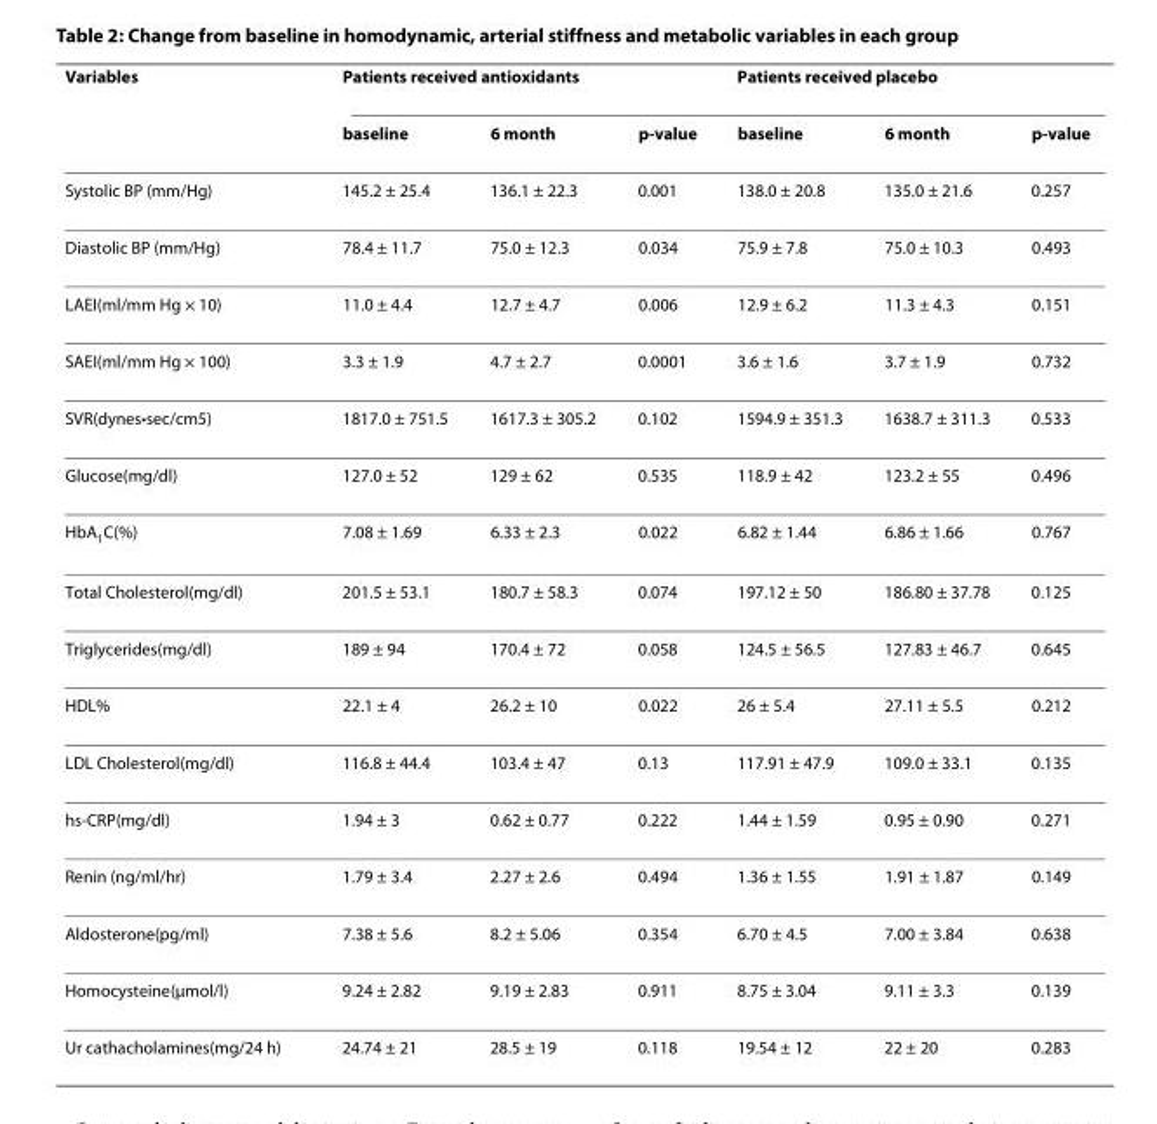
<table><thead><tr><td rowspan="2">Variables</td><td colspan="3">Patients received antioxidants</td><td colspan="3">Patients received placebo</td></tr><tr><td>baseline</td><td>6 month</td><td>p-value</td><td>baseline</td><td>6 month</td><td>p-value</td></tr></thead><tbody><tr><td>Systolic BP (mm/Hg)</td><td>145.2 ± 25.4</td><td>136.1 ± 22.3</td><td>0.001</td><td>138.0 ± 20.8</td><td>135.0 ± 21.6</td><td>0.257</td></tr><tr><td>Diastolic BP (mm/Hg)</td><td>78.4 ± 11.7</td><td>75.0 ± 12.3</td><td>0.034</td><td>75.9 ± 7.8</td><td>75.0 ± 10.3</td><td>0.493</td></tr><tr><td>LAEI(ml/mm Hg × 10)</td><td>11.0 ± 4.4</td><td>12.7 ± 4.7</td><td>0.006</td><td>12.9 ± 6.2</td><td>11.3 ± 4.3</td><td>0.151</td></tr><tr><td>SAEI(ml/mm Hg × 100)</td><td>3.3 ± 1.9</td><td>4.7 ± 2.7</td><td>0.0001</td><td>3.6 ± 1.6</td><td>3.7 ± 1.9</td><td>0.732</td></tr><tr><td>SVR(dynes•sec/cm5)</td><td>1817.0 ± 751.5</td><td>1617.3 ± 305.2</td><td>0.102</td><td>1594.9 ± 351.3</td><td>1638.7 ± 311.3</td><td>0.533</td></tr><tr><td>Glucose(mg/dl)</td><td>127.0 ± 52</td><td>129 ± 62</td><td>0.535</td><td>118.9 ± 42</td><td>123.2 ± 55</td><td>0.496</td></tr><tr><td>HbA<sub>1</sub>C(%)</td><td>7.08 ± 1.69</td><td>6.33 ± 2.3</td><td>0.022</td><td>6.82 ± 1.44</td><td>6.86 ± 1.66</td><td>0.767</td></tr><tr><td>Total Cholesterol(mg/dl)</td><td>201.5 ± 53.1</td><td>180.7 ± 58.3</td><td>0.074</td><td>197.12 ± 50</td><td>186.80 ± 37.78</td><td>0.125</td></tr><tr><td>Triglycerides(mg/dl)</td><td>189 ± 94</td><td>170.4 ± 72</td><td>0.058</td><td>124.5 ± 56.5</td><td>127.83 ± 46.7</td><td>0.645</td></tr><tr><td>HDL%</td><td>22.1 ± 4</td><td>26.2 ± 10</td><td>0.022</td><td>26 ± 5.4</td><td>27.11 ± 5.5</td><td>0.212</td></tr><tr><td>LDL Cholesterol(mg/dl)</td><td>116.8 ± 44.4</td><td>103.4 ± 47</td><td>0.13</td><td>117.91 ± 47.9</td><td>109.0 ± 33.1</td><td>0.135</td></tr><tr><td>hs-CRP(mg/dl)</td><td>1.94 ± 3</td><td>0.62 ± 0.77</td><td>0.222</td><td>1.44 ± 1.59</td><td>0.95 ± 0.90</td><td>0.271</td></tr><tr><td>Renin (ng/ml/hr)</td><td>1.79 ± 3.4</td><td>2.27 ± 2.6</td><td>0.494</td><td>1.36 ± 1.55</td><td>1.91 ± 1.87</td><td>0.149</td></tr><tr><td>Aldosterone(pg/ml)</td><td>7.38 ± 5.6</td><td>8.2 ± 5.06</td><td>0.354</td><td>6.70 ± 4.5</td><td>7.00 ± 3.84</td><td>0.638</td></tr><tr><td>Homocysteine(μmol/l)</td><td>9.24 ± 2.82</td><td>9.19 ± 2.83</td><td>0.911</td><td>8.75 ± 3.04</td><td>9.11 ± 3.3</td><td>0.139</td></tr><tr><td>Ur cathacholamines(mg/24 h)</td><td>24.74 ± 21</td><td>28.5 ± 19</td><td>0.118</td><td>19.54 ± 12</td><td>22 ± 20</td><td>0.283</td></tr></tbody></table>